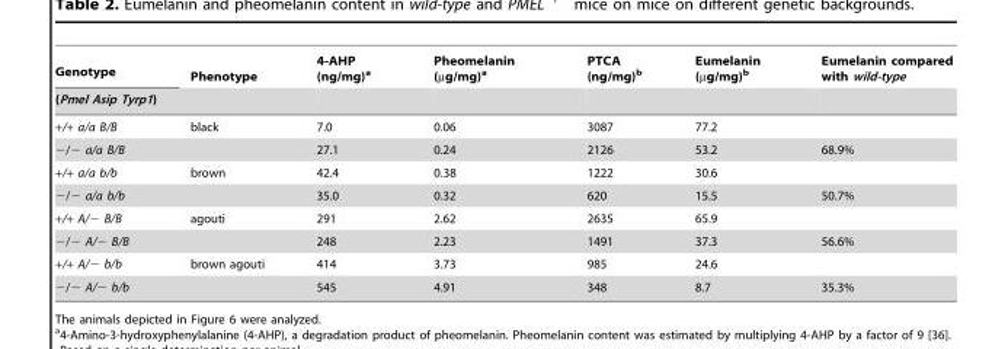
<table><thead><tr><td rowspan="2">Genotype (Pmel Asip Tyrp1)</td><td rowspan="2">Phenotype</td><td rowspan="2">4-AHP (ng/mg)<sup>a</sup></td><td rowspan="2">Pheomelanin (µg/mg)<sup>a</sup></td><td rowspan="2">PTCA (ng/mg)<sup>b</sup></td><td rowspan="2">Eumelanin (µg/mg)<sup>b</sup></td><td rowspan="2">Eumelanin compared with wild-type</td></tr><tr></tr></thead><tbody><tr><td>+/+ a/a B/B</td><td>black</td><td>7.0</td><td>0.06</td><td>3087</td><td>77.2</td><td></td></tr><tr><td>−/− a/a B/B</td><td></td><td>27.1</td><td>0.24</td><td>2126</td><td>53.2</td><td>68.9%</td></tr><tr><td>+/+ a/a b/b</td><td>brown</td><td>42.4</td><td>0.38</td><td>1222</td><td>30.6</td><td></td></tr><tr><td>−/− a/a b/b</td><td></td><td>35.0</td><td>0.32</td><td>620</td><td>15.5</td><td>50.7%</td></tr><tr><td>+/+ A/− B/B</td><td>agouti</td><td>291</td><td>2.62</td><td>2635</td><td>65.9</td><td></td></tr><tr><td>−/− A/− B/B</td><td></td><td>248</td><td>2.23</td><td>1491</td><td>37.3</td><td>56.6%</td></tr><tr><td>+/+ A/− b/b</td><td>brown agouti</td><td>414</td><td>3.73</td><td>985</td><td>24.6</td><td></td></tr><tr><td>−/− A/− b/b</td><td></td><td>545</td><td>4.91</td><td>348</td><td>8.7</td><td>35.3%</td></tr></tbody></table>